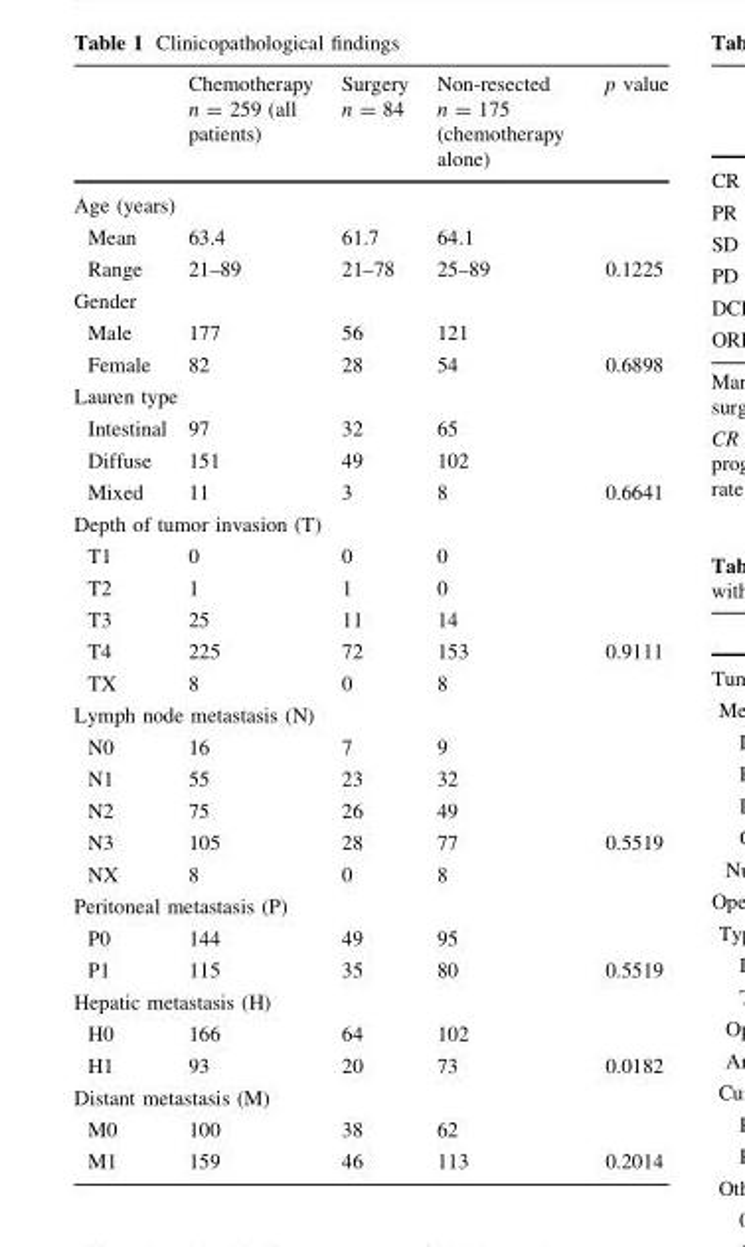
<table><thead><tr><td></td><td>Chemotherapy n = 259 (all patients)</td><td>Surgery n = 84</td><td>Non-resected n = 175 (chemotherapy alone)</td><td>p value</td></tr></thead><tbody><tr><td colspan="5">Age (years)</td></tr><tr><td>Mean</td><td>63.4</td><td>61.7</td><td>64.1</td><td></td></tr><tr><td>Range</td><td>21–89</td><td>21–78</td><td>25–89</td><td>0.1225</td></tr><tr><td colspan="5">Gender</td></tr><tr><td>Male</td><td>177</td><td>56</td><td>121</td><td></td></tr><tr><td>Female</td><td>82</td><td>28</td><td>54</td><td>0.6898</td></tr><tr><td colspan="5">Lauren type</td></tr><tr><td>Intestinal</td><td>97</td><td>32</td><td>65</td><td></td></tr><tr><td>Diffuse</td><td>151</td><td>49</td><td>102</td><td></td></tr><tr><td>Mixed</td><td>11</td><td>3</td><td>8</td><td>0.6641</td></tr><tr><td colspan="5">Depth of tumor invasion (T)</td></tr><tr><td>T1</td><td>0</td><td>0</td><td>0</td><td></td></tr><tr><td>T2</td><td>1</td><td>1</td><td>0</td><td></td></tr><tr><td>T3</td><td>25</td><td>11</td><td>14</td><td></td></tr><tr><td>T4</td><td>225</td><td>72</td><td>153</td><td>0.9111</td></tr><tr><td>TX</td><td>8</td><td>0</td><td>8</td><td></td></tr><tr><td colspan="5">Lymph node metastasis (N)</td></tr><tr><td>N0</td><td>16</td><td>7</td><td>9</td><td></td></tr><tr><td>N1</td><td>55</td><td>23</td><td>32</td><td></td></tr><tr><td>N2</td><td>75</td><td>26</td><td>49</td><td></td></tr><tr><td>N3</td><td>105</td><td>28</td><td>77</td><td>0.5519</td></tr><tr><td>NX</td><td>8</td><td>0</td><td>8</td><td></td></tr><tr><td colspan="5">Peritoneal metastasis (P)</td></tr><tr><td>P0</td><td>144</td><td>49</td><td>95</td><td></td></tr><tr><td>P1</td><td>115</td><td>35</td><td>80</td><td>0.5519</td></tr><tr><td colspan="5">Hepatic metastasis (H)</td></tr><tr><td>H0</td><td>166</td><td>64</td><td>102</td><td></td></tr><tr><td>H1</td><td>93</td><td>20</td><td>73</td><td>0.0182</td></tr><tr><td colspan="5">Distant metastasis (M)</td></tr><tr><td>M0</td><td>100</td><td>38</td><td>62</td><td></td></tr><tr><td>M1</td><td>159</td><td>46</td><td>113</td><td>0.2014</td></tr></tbody></table>